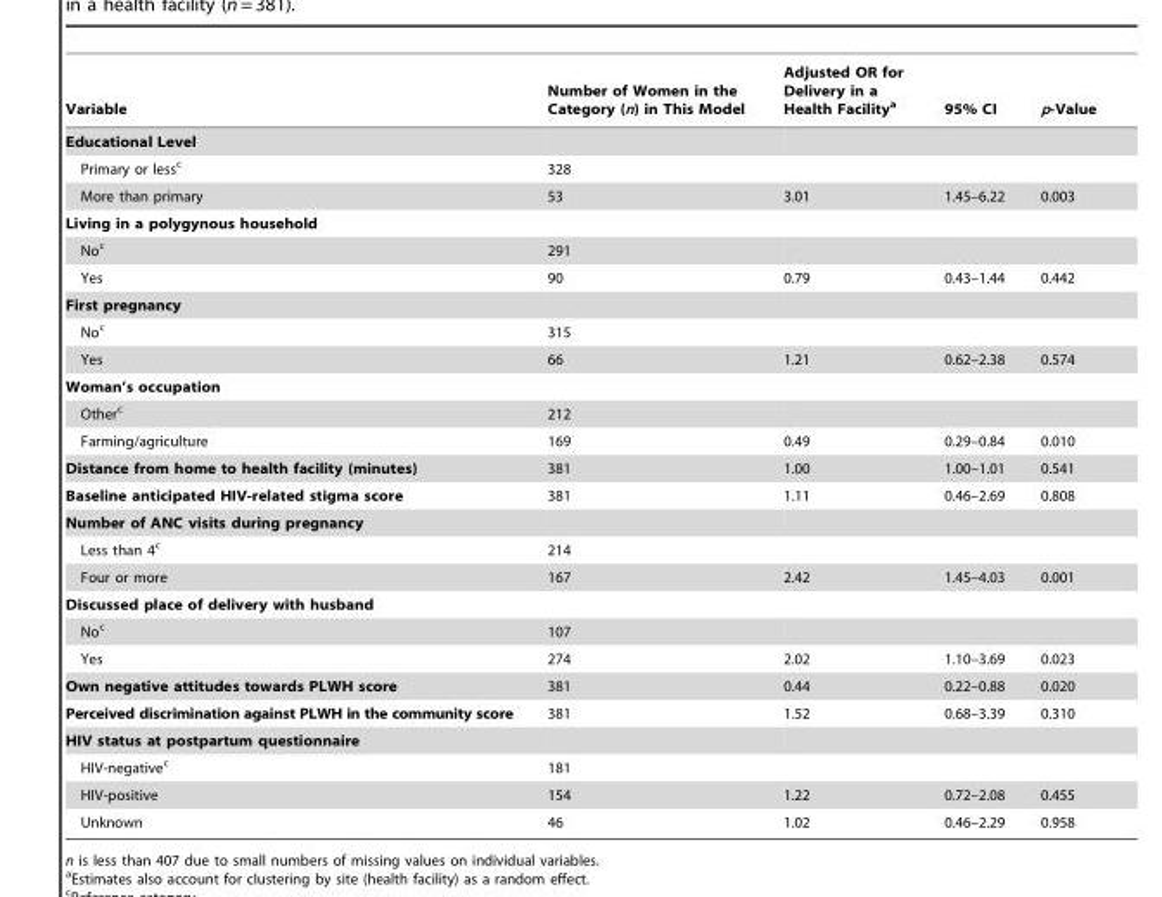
<table><thead><tr><td>Variable</td><td>Number of Women in the Category (n) in This Model</td><td>Adjusted OR for Delivery in a Health Facility<sup>a</sup></td><td>95% CI</td><td>p-Value</td></tr></thead><tbody><tr><td colspan="5">Educational Level</td></tr><tr><td>Primary or less<sup>c</sup></td><td>328</td><td></td><td></td><td></td></tr><tr><td>More than primary</td><td>53</td><td>3.01</td><td>1.45–6.22</td><td>0.003</td></tr><tr><td colspan="5">Living in a polygynous household</td></tr><tr><td>No<sup>c</sup></td><td>291</td><td></td><td></td><td></td></tr><tr><td>Yes</td><td>90</td><td>0.79</td><td>0.43–1.44</td><td>0.442</td></tr><tr><td colspan="5">First pregnancy</td></tr><tr><td>No<sup>c</sup></td><td>315</td><td></td><td></td><td></td></tr><tr><td>Yes</td><td>66</td><td>1.21</td><td>0.62–2.38</td><td>0.574</td></tr><tr><td colspan="5">Woman’s occupation</td></tr><tr><td>Other<sup>c</sup></td><td>212</td><td></td><td></td><td></td></tr><tr><td>Farming/agriculture</td><td>169</td><td>0.49</td><td>0.29–0.84</td><td>0.010</td></tr><tr><td>Distance from home to health facility (minutes)</td><td>381</td><td>1.00</td><td>1.00–1.01</td><td>0.541</td></tr><tr><td>Baseline anticipated HIV-related stigma score</td><td>381</td><td>1.11</td><td>0.46–2.69</td><td>0.808</td></tr><tr><td colspan="5">Number of ANC visits during pregnancy</td></tr><tr><td>Less than 4<sup>c</sup></td><td>214</td><td></td><td></td><td></td></tr><tr><td>Four or more</td><td>167</td><td>2.42</td><td>1.45–4.03</td><td>0.001</td></tr><tr><td colspan="5">Discussed place of delivery with husband</td></tr><tr><td>No<sup>c</sup></td><td>107</td><td></td><td></td><td></td></tr><tr><td>Yes</td><td>274</td><td>2.02</td><td>1.10–3.69</td><td>0.023</td></tr><tr><td>Own negative attitudes towards PLWH score</td><td>381</td><td>0.44</td><td>0.22–0.88</td><td>0.020</td></tr><tr><td>Perceived discrimination against PLWH in the community score</td><td>381</td><td>1.52</td><td>0.68–3.39</td><td>0.310</td></tr><tr><td colspan="5">HIV status at postpartum questionnaire</td></tr><tr><td>HIV-negative<sup>c</sup></td><td>181</td><td></td><td></td><td></td></tr><tr><td>HIV-positive</td><td>154</td><td>1.22</td><td>0.72–2.08</td><td>0.455</td></tr><tr><td>Unknown</td><td>46</td><td>1.02</td><td>0.46–2.29</td><td>0.958</td></tr></tbody></table>